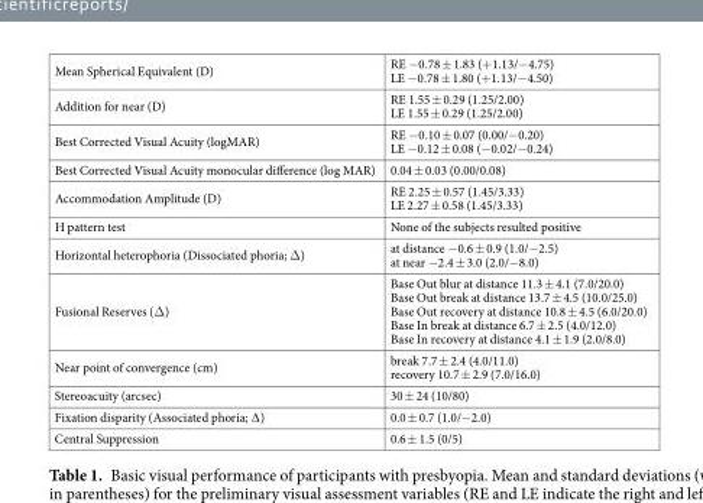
<table><tbody><tr><td>Mean Spherical Equivalent (D)</td><td>RE −0.78 ± 1.83 (+1.13/−4.75) LE −0.78 ± 1.80 (+1.13/−4.50)</td></tr><tr><td>Addition for near (D)</td><td>RE 1.55 ± 0.29 (1.25/2.00) LE 1.55 ± 0.29 (1.25/2.00)</td></tr><tr><td>Best Corrected Visual Acuity (logMAR)</td><td>RE −0.10 ± 0.07 (0.00/−0.20) LE −0.12 ± 0.08 (−0.02/−0.24)</td></tr><tr><td>Best Corrected Visual Acuity monocular difference (log MAR)</td><td>0.04 ± 0.03 (0.00/0.08)</td></tr><tr><td>Accommodation Amplitude (D)</td><td>RE 2.25 ± 0.57 (1.45/3.33) LE 2.27 ± 0.58 (1.45/3.33)</td></tr><tr><td>H pattern test</td><td>None of the subjects resulted positive</td></tr><tr><td>Horizontal heterophoria (Dissociated phoria; Δ)</td><td>at distance −0.6 ± 0.9 (1.0/−2.5) at near −2.4 ± 3.0 (2.0/−8.0)</td></tr><tr><td>Fusional Reserves (Δ)</td><td>Base Out blur at distance 11.3 ± 4.1 (7.0/20.0) Base Out break at distance 13.7 ± 4.5 (10.0/25.0) Base Out recovery at distance 10.8 ± 4.5 (6.0/20.0) Base In break at distance 6.7 ± 2.5 (4.0/12.0) Base In recovery at distance 4.1 ± 1.9 (2.0/8.0)</td></tr><tr><td>Near point of convergence (cm)</td><td>break 7.7 ± 2.4 (4.0/11.0) recovery 10.7 ± 2.9 (7.0/16.0)</td></tr><tr><td>Stereoacuity (arcsec)</td><td>30 ± 24 (10/80)</td></tr><tr><td>Fixation disparity (Associated phoria; ∆)</td><td>0.0 ± 0.7 (1.0/−2.0)</td></tr><tr><td>Central Suppression</td><td>0.6 ± 1.5 (0/5)</td></tr></tbody></table>